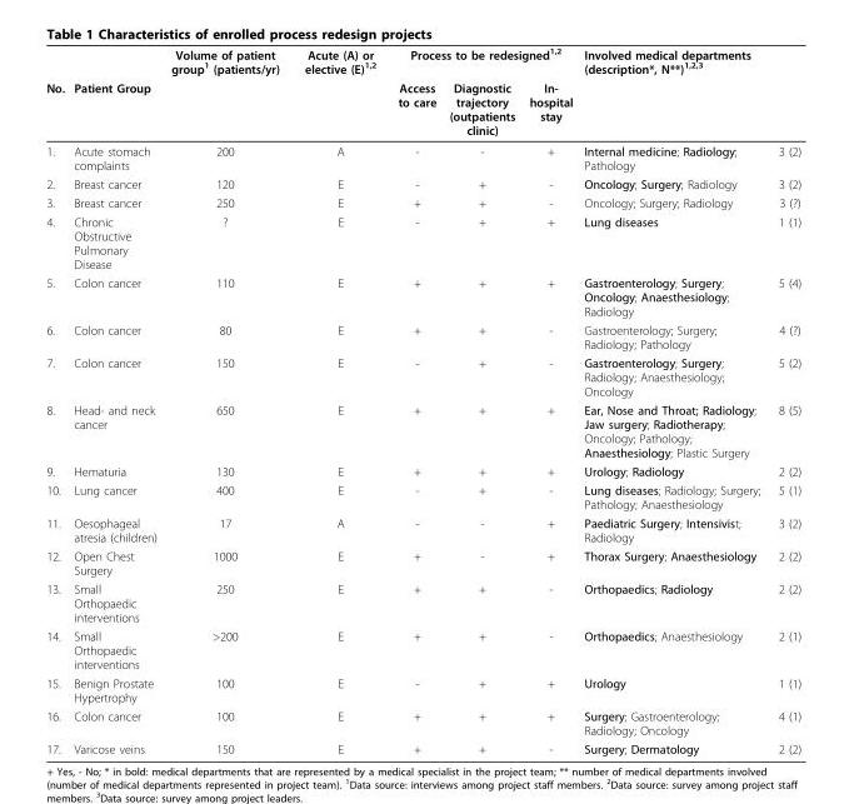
<table><thead><tr><td rowspan="2">No.</td><td rowspan="2">Patient Group</td><td rowspan="2">Volume of patient group<sup>1</sup> (patients/yr)</td><td rowspan="2">Acute (A) or elective (E)<sup>1,2</sup></td><td colspan="3">Process to be redesigned<sup>1,2</sup></td><td colspan="2">Involved medical departments (description*, N**)<sup>1,2,3</sup></td></tr><tr><td>Access to care</td><td>Diagnostic trajectory (outpatients clinic)</td><td>In- hospital stay</td><td></td><td></td></tr></thead><tbody><tr><td>1.</td><td>Acute stomach complaints</td><td>200</td><td>A</td><td>-</td><td>-</td><td>+</td><td>Internal medicine; Radiology; Pathology</td><td>3 (2)</td></tr><tr><td>2.</td><td>Breast cancer</td><td>120</td><td>E</td><td>-</td><td>+</td><td>-</td><td>Oncology; Surgery; Radiology</td><td>3 (2)</td></tr><tr><td>3.</td><td>Breast cancer</td><td>250</td><td>E</td><td>+</td><td>+</td><td>-</td><td>Oncology; Surgery; Radiology</td><td>3 (?)</td></tr><tr><td>4.</td><td>Chronic Obstructive Pulmonary Disease</td><td>?</td><td>E</td><td>-</td><td>+</td><td>+</td><td>Lung diseases</td><td>1 (1)</td></tr><tr><td>5.</td><td>Colon cancer</td><td>110</td><td>E</td><td>+</td><td>+</td><td>+</td><td>Gastroenterology; Surgery; Oncology; Anaesthesiology; Radiology</td><td>5 (4)</td></tr><tr><td>6.</td><td>Colon cancer</td><td>80</td><td>E</td><td>+</td><td>+</td><td>-</td><td>Gastroenterology; Surgery; Radiology; Pathology</td><td>4 (?)</td></tr><tr><td>7.</td><td>Colon cancer</td><td>150</td><td>E</td><td>-</td><td>+</td><td>-</td><td>Gastroenterology; Surgery; Radiology; Anaesthesiology; Oncology</td><td>5 (2)</td></tr><tr><td>8.</td><td>Head- and neck cancer</td><td>650</td><td>E</td><td>+</td><td>+</td><td>+</td><td>Ear, Nose and Throat; Radiology; Jaw surgery; Radiotherapy; Oncology; Pathology; Anaesthesiology; Plastic Surgery</td><td>8 (5)</td></tr><tr><td>9.</td><td>Hematuria</td><td>130</td><td>E</td><td>+</td><td>+</td><td>+</td><td>Urology; Radiology</td><td>2 (2)</td></tr><tr><td>10.</td><td>Lung cancer</td><td>400</td><td>E</td><td>-</td><td>+</td><td>-</td><td>Lung diseases; Radiology; Surgery; Pathology; Anaesthesiology</td><td>5 (1)</td></tr><tr><td>11.</td><td>Oesophageal atresia (children)</td><td>17</td><td>A</td><td>-</td><td>-</td><td>+</td><td>Paediatric Surgery; Intensivist; Radiology</td><td>3 (2)</td></tr><tr><td>12.</td><td>Open Chest Surgery</td><td>1000</td><td>E</td><td>+</td><td>-</td><td>+</td><td>Thorax Surgery; Anaesthesiology</td><td>2 (2)</td></tr><tr><td>13.</td><td>Small Orthopaedic interventions</td><td>250</td><td>E</td><td>+</td><td>+</td><td>-</td><td>Orthopaedics; Radiology</td><td>2 (2)</td></tr><tr><td>14.</td><td>Small Orthopaedic interventions</td><td>&gt;200</td><td>E</td><td>+</td><td>+</td><td>-</td><td>Orthopaedics; Anaesthesiology</td><td>2 (1)</td></tr><tr><td>15.</td><td>Benign Prostate Hypertrophy</td><td>100</td><td>E</td><td>-</td><td>+</td><td>+</td><td>Urology</td><td>1 (1)</td></tr><tr><td>16.</td><td>Colon cancer</td><td>100</td><td>E</td><td>+</td><td>+</td><td>+</td><td>Surgery; Gastroenterology; Radiology; Oncology</td><td>4 (1)</td></tr><tr><td>17.</td><td>Varicose veins</td><td>150</td><td>E</td><td>+</td><td>+</td><td>-</td><td>Surgery; Dermatology</td><td>2 (2)</td></tr></tbody></table>